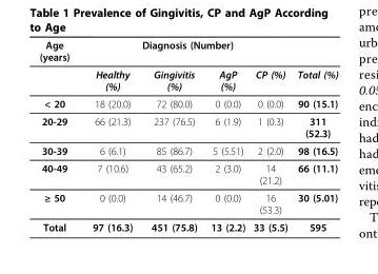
<table><thead><tr><td rowspan="2">Age (years)</td><td colspan="4">Diagnosis (Number)</td><td rowspan="2">Total (%)</td></tr><tr><td>Healthy (%)</td><td>Gingivitis (%)</td><td>AgP (%)</td><td>CP (%)</td></tr></thead><tbody><tr><td>&lt; 20</td><td>18 (20.0)</td><td>72 (80.0)</td><td>0 (0.0)</td><td>0 (0.0)</td><td>90 (15.1)</td></tr><tr><td>20-29</td><td>66 (21.3)</td><td>237 (76.5)</td><td>6 (1.9)</td><td>1 (0.3)</td><td>311 (52.3)</td></tr><tr><td>30-39</td><td>6 (6.1)</td><td>85 (86.7)</td><td>5 (5.51)</td><td>2 (2.0)</td><td>98 (16.5)</td></tr><tr><td>40-49</td><td>7 (10.6)</td><td>43 (65.2)</td><td>2 (3.0)</td><td>14 (21.2)</td><td>66 (11.1)</td></tr><tr><td>≥ 50</td><td>0 (0.0)</td><td>14 (46.7)</td><td>0 (0.0)</td><td>16 (53.3)</td><td>30 (5.01)</td></tr><tr><td>Total</td><td>97 (16.3)</td><td>451 (75.8)</td><td>13 (2.2)</td><td>33 (5.5)</td><td>595</td></tr></tbody></table>